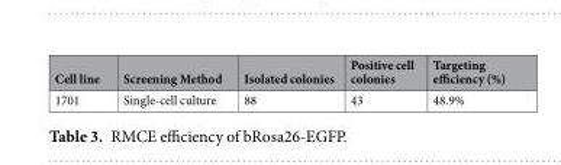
<table><thead><tr><td>Cell line</td><td>Screening Method</td><td>Isolated colonies</td><td>Positive cell colonies</td><td>Targeting efficiency (%)</td></tr></thead><tbody><tr><td>1701</td><td>Single-cell culture</td><td>88</td><td>43</td><td>48.9%</td></tr></tbody></table>